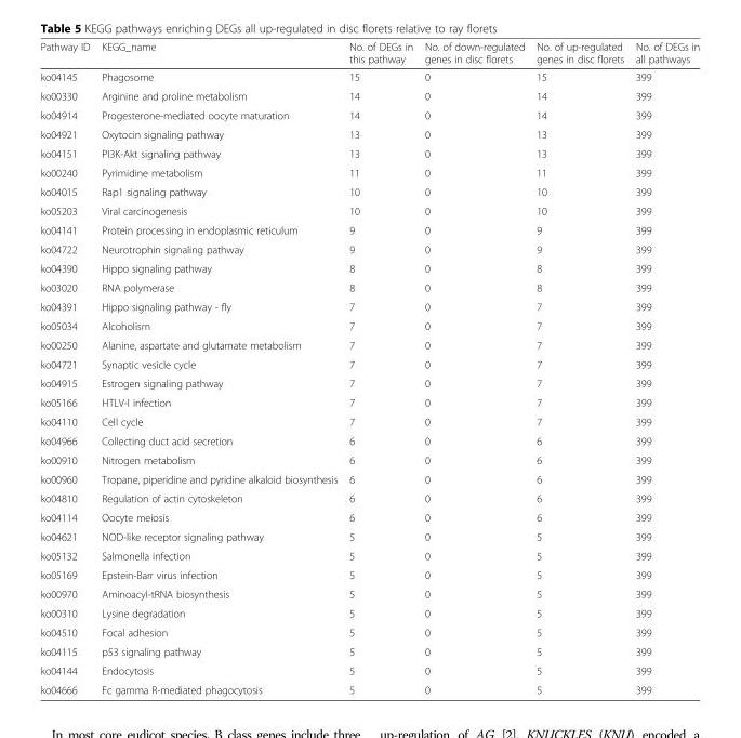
<table><thead><tr><td>Pathway ID</td><td>KEGG_name</td><td>No. of DEGs in this pathway</td><td>No. of down-regulated genes in disc florets</td><td>No. of up-regulated genes in disc florets</td><td>No. of DEGs in all pathways</td></tr></thead><tbody><tr><td>ko04145</td><td>Phagosome</td><td>15</td><td>0</td><td>15</td><td>399</td></tr><tr><td>ko00330</td><td>Arginine and proline metabolism</td><td>14</td><td>0</td><td>14</td><td>399</td></tr><tr><td>ko04914</td><td>Progesterone-mediated oocyte maturation</td><td>14</td><td>0</td><td>14</td><td>399</td></tr><tr><td>ko04921</td><td>Oxytocin signaling pathway</td><td>13</td><td>0</td><td>13</td><td>399</td></tr><tr><td>ko04151</td><td>PI3K-Akt signaling pathway</td><td>13</td><td>0</td><td>13</td><td>399</td></tr><tr><td>ko00240</td><td>Pyrimidine metabolism</td><td>11</td><td>0</td><td>11</td><td>399</td></tr><tr><td>ko04015</td><td>Rap1 signaling pathway</td><td>10</td><td>0</td><td>10</td><td>399</td></tr><tr><td>ko05203</td><td>Viral carcinogenesis</td><td>10</td><td>0</td><td>10</td><td>399</td></tr><tr><td>ko04141</td><td>Protein processing in endoplasmic reticulum</td><td>9</td><td>0</td><td>9</td><td>399</td></tr><tr><td>ko04722</td><td>Neurotrophin signaling pathway</td><td>9</td><td>0</td><td>9</td><td>399</td></tr><tr><td>ko04390</td><td>Hippo signaling pathway</td><td>8</td><td>0</td><td>8</td><td>399</td></tr><tr><td>ko03020</td><td>RNA polymerase</td><td>8</td><td>0</td><td>8</td><td>399</td></tr><tr><td>ko04391</td><td>Hippo signaling pathway - fly</td><td>7</td><td>0</td><td>7</td><td>399</td></tr><tr><td>ko05034</td><td>Alcoholism</td><td>7</td><td>0</td><td>7</td><td>399</td></tr><tr><td>ko00250</td><td>Alanine, aspartate and glutamate metabolism</td><td>7</td><td>0</td><td>7</td><td>399</td></tr><tr><td>ko04721</td><td>Synaptic vesicle cycle</td><td>7</td><td>0</td><td>7</td><td>399</td></tr><tr><td>ko04915</td><td>Estrogen signaling pathway</td><td>7</td><td>0</td><td>7</td><td>399</td></tr><tr><td>ko05166</td><td>HTLV-I infection</td><td>7</td><td>0</td><td>7</td><td>399</td></tr><tr><td>ko04110</td><td>Cell cycle</td><td>7</td><td>0</td><td>7</td><td>399</td></tr><tr><td>ko04966</td><td>Collecting duct acid secretion</td><td>6</td><td>0</td><td>6</td><td>399</td></tr><tr><td>ko00910</td><td>Nitrogen metabolism</td><td>6</td><td>0</td><td>6</td><td>399</td></tr><tr><td>ko00960</td><td>Tropane, piperidine and pyridine alkaloid biosynthesis</td><td>6</td><td>0</td><td>6</td><td>399</td></tr><tr><td>ko04810</td><td>Regulation of actin cytoskeleton</td><td>6</td><td>0</td><td>6</td><td>399</td></tr><tr><td>ko04114</td><td>Oocyte meiosis</td><td>6</td><td>0</td><td>6</td><td>399</td></tr><tr><td>ko04621</td><td>NOD-like receptor signaling pathway</td><td>5</td><td>0</td><td>5</td><td>399</td></tr><tr><td>ko05132</td><td>Salmonella infection</td><td>5</td><td>0</td><td>5</td><td>399</td></tr><tr><td>ko05169</td><td>Epstein-Barr virus infection</td><td>5</td><td>0</td><td>5</td><td>399</td></tr><tr><td>ko00970</td><td>Aminoacyl-tRNA biosynthesis</td><td>5</td><td>0</td><td>5</td><td>399</td></tr><tr><td>ko00310</td><td>Lysine degradation</td><td>5</td><td>0</td><td>5</td><td>399</td></tr><tr><td>ko04510</td><td>Focal adhesion</td><td>5</td><td>0</td><td>5</td><td>399</td></tr><tr><td>ko04115</td><td>p53 signaling pathway</td><td>5</td><td>0</td><td>5</td><td>399</td></tr><tr><td>ko04144</td><td>Endocytosis</td><td>5</td><td>0</td><td>5</td><td>399</td></tr><tr><td>ko04666</td><td>Fc gamma R-mediated phagocytosis</td><td>5</td><td>0</td><td>5</td><td>399</td></tr></tbody></table>